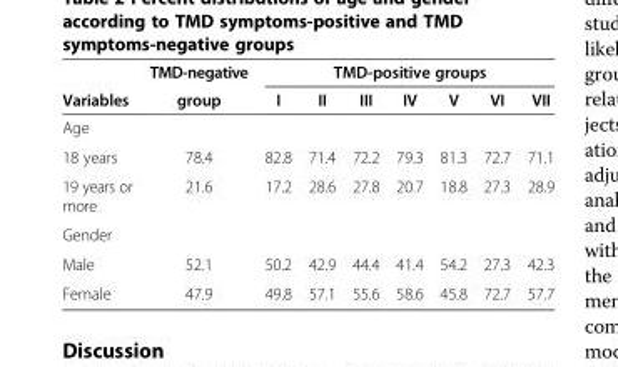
<table><thead><tr><td rowspan="2">Variables</td><td rowspan="2">TMD-negative group</td><td colspan="7">TMD-positive groups</td></tr><tr><td>I</td><td>II</td><td>III</td><td>IV</td><td>V</td><td>VI</td><td>VII</td></tr></thead><tbody><tr><td colspan="9">Age</td></tr><tr><td>18 years</td><td>78.4</td><td>82.8</td><td>71.4</td><td>72.2</td><td>79.3</td><td>81.3</td><td>72.7</td><td>71.1</td></tr><tr><td>19 years or more</td><td>21.6</td><td>17.2</td><td>28.6</td><td>27.8</td><td>20.7</td><td>18.8</td><td>27.3</td><td>28.9</td></tr><tr><td colspan="9">Gender</td></tr><tr><td>Male</td><td>52.1</td><td>50.2</td><td>42.9</td><td>44.4</td><td>41.4</td><td>54.2</td><td>27.3</td><td>42.3</td></tr><tr><td>Female</td><td>47.9</td><td>49.8</td><td>57.1</td><td>55.6</td><td>58.6</td><td>45.8</td><td>72.7</td><td>57.7</td></tr></tbody></table>